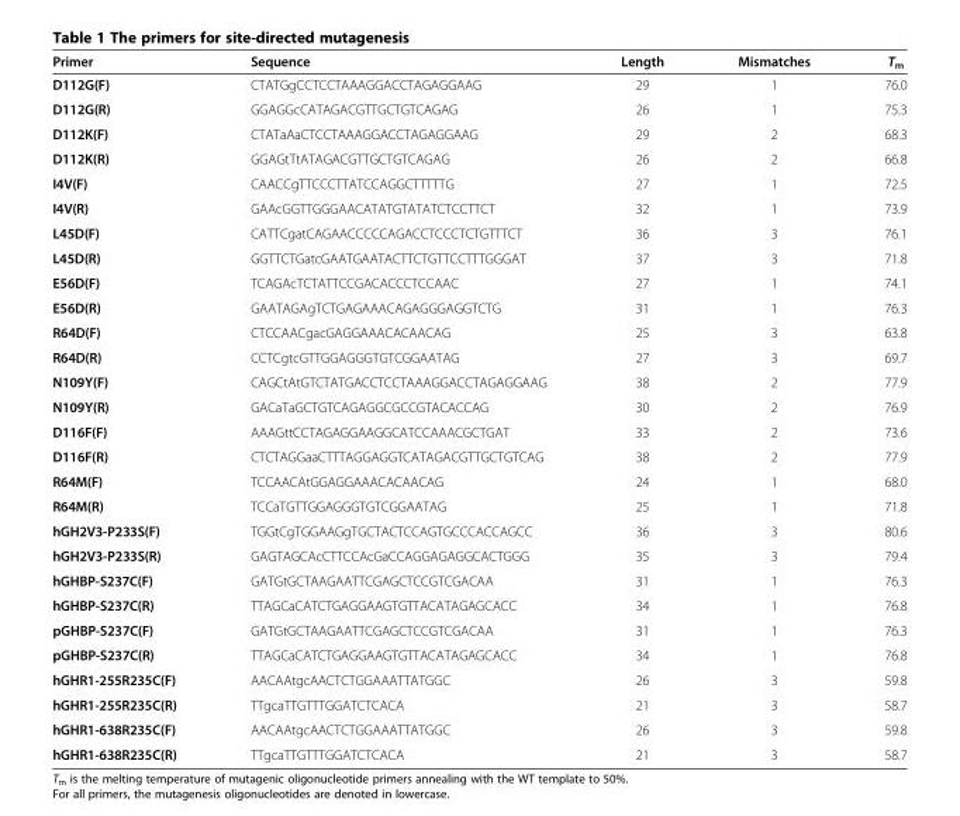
<table><thead><tr><td>Primer</td><td>Sequence</td><td>Length</td><td>Mismatches</td><td>T<sub>m</sub></td></tr></thead><tbody><tr><td>D112G(F)</td><td>CTATGgCCTCCTAAAGGACCTAGAGGAAG</td><td>29</td><td>1</td><td>76.0</td></tr><tr><td>D112G(R)</td><td>GGAGGcCATAGACGTTGCTGTCAGAG</td><td>26</td><td>1</td><td>75.3</td></tr><tr><td>D112K(F)</td><td>CTATaAaCTCCTAAAGGACCTAGAGGAAG</td><td>29</td><td>2</td><td>68.3</td></tr><tr><td>D112K(R)</td><td>GGAGtTtATAGACGTTGCTGTCAGAG</td><td>26</td><td>2</td><td>66.8</td></tr><tr><td>I4V(F)</td><td>CAACCgTTCCCTTATCCAGGCTTTTTG</td><td>27</td><td>1</td><td>72.5</td></tr><tr><td>I4V(R)</td><td>GAAcGGTTGGGAACATATGTATATCTCCTTCT</td><td>32</td><td>1</td><td>73.9</td></tr><tr><td>L45D(F)</td><td>CATTCgatCAGAACCCCCAGACCTCCCTCTGTTTCT</td><td>36</td><td>3</td><td>76.1</td></tr><tr><td>L45D(R)</td><td>GGTTCTGatcGAATGAATACTTCTGTTCCTTTGGGAT</td><td>37</td><td>3</td><td>71.8</td></tr><tr><td>E56D(F)</td><td>TCAGAcTCTATTCCGACACCCTCCAAC</td><td>27</td><td>1</td><td>74.1</td></tr><tr><td>E56D(R)</td><td>GAATAGAgTCTGAGAAACAGAGGGAGGTCTG</td><td>31</td><td>1</td><td>76.3</td></tr><tr><td>R64D(F)</td><td>CTCCAACgacGAGGAAACACAACAG</td><td>25</td><td>3</td><td>63.8</td></tr><tr><td>R64D(R)</td><td>CCTCgtcGTTGGAGGGTGTCGGAATAG</td><td>27</td><td>3</td><td>69.7</td></tr><tr><td>N109Y(F)</td><td>CAGCtAtGTCTATGACCTCCTAAAGGACCTAGAGGAAG</td><td>38</td><td>2</td><td>77.9</td></tr><tr><td>N109Y(R)</td><td>GACaTaGCTGTCAGAGGCGCCGTACACCAG</td><td>30</td><td>2</td><td>76.9</td></tr><tr><td>D116F(F)</td><td>AAAGttCCTAGAGGAAGGCATCCAAACGCTGAT</td><td>33</td><td>2</td><td>73.6</td></tr><tr><td>D116F(R)</td><td>CTCTAGGaaCTTTAGGAGGTCATAGACGTTGCTGTCAG</td><td>38</td><td>2</td><td>77.9</td></tr><tr><td>R64M(F)</td><td>TCCAACAtGGAGGAAACACAACAG</td><td>24</td><td>1</td><td>68.0</td></tr><tr><td>R64M(R)</td><td>TCCaTGTTGGAGGGTGTCGGAATAG</td><td>25</td><td>1</td><td>71.8</td></tr><tr><td>hGH2V3-P233S(F)</td><td>TGGtCgTGGAAGgTGCTACTCCAGTGCCCACCAGCC</td><td>36</td><td>3</td><td>80.6</td></tr><tr><td>hGH2V3-P233S(R)</td><td>GAGTAGCAcCTTCCAcGaCCAGGAGAGGCACTGGG</td><td>35</td><td>3</td><td>79.4</td></tr><tr><td>hGHBP-S237C(F)</td><td>GATGtGCTAAGAATTCGAGCTCCGTCGACAA</td><td>31</td><td>1</td><td>76.3</td></tr><tr><td>hGHBP-S237C(R)</td><td>TTAGCaCATCTGAGGAAGTGTTACATAGAGCACC</td><td>34</td><td>1</td><td>76.8</td></tr><tr><td>pGHBP-S237C(F)</td><td>GATGtGCTAAGAATTCGAGCTCCGTCGACAA</td><td>31</td><td>1</td><td>76.3</td></tr><tr><td>pGHBP-S237C(R)</td><td>TTAGCaCATCTGAGGAAGTGTTACATAGAGCACC</td><td>34</td><td>1</td><td>76.8</td></tr><tr><td>hGHR1-255R235C(F)</td><td>AACAAtgcAACTCTGGAAATTATGGC</td><td>26</td><td>3</td><td>59.8</td></tr><tr><td>hGHR1-255R235C(R)</td><td>TTgcaTTGTTTGGATCTCACA</td><td>21</td><td>3</td><td>58.7</td></tr><tr><td>hGHR1-638R235C(F)</td><td>AACAAtgcAACTCTGGAAATTATGGC</td><td>26</td><td>3</td><td>59.8</td></tr><tr><td>hGHR1-638R235C(R)</td><td>TTgcaTTGTTTGGATCTCACA</td><td>21</td><td>3</td><td>58.7</td></tr></tbody></table>